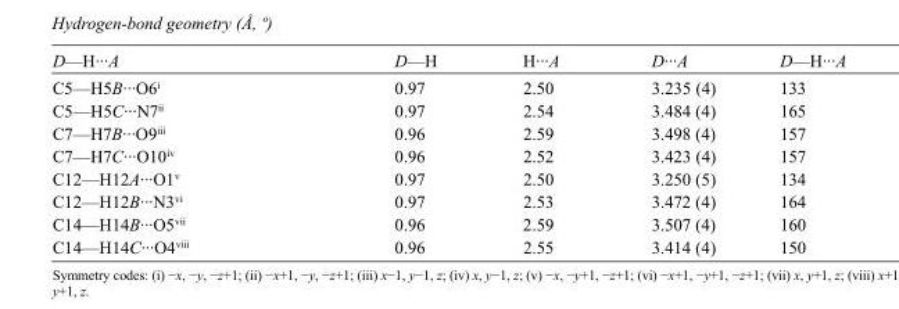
<table><tbody><tr><td>D—H···A</td><td>D—H</td><td>H···A</td><td>D···A</td><td>D—H···A</td></tr><tr><td>C5—H5B···O6<sup>i</sup></td><td>0.97</td><td>2.50</td><td>3.235 (4)</td><td>133</td></tr><tr><td>C5—H5C···N7<sup>ii</sup></td><td>0.97</td><td>2.54</td><td>3.484 (4)</td><td>165</td></tr><tr><td>C7—H7B···O9<sup>iii</sup></td><td>0.96</td><td>2.59</td><td>3.498 (4)</td><td>157</td></tr><tr><td>C7—H7C···O10<sup>iv</sup></td><td>0.96</td><td>2.52</td><td>3.423 (4)</td><td>157</td></tr><tr><td>C12—H12A···O1<sup>v</sup></td><td>0.97</td><td>2.50</td><td>3.250 (5)</td><td>134</td></tr><tr><td>C12—H12B···N3<sup>vi</sup></td><td>0.97</td><td>2.53</td><td>3.472 (4)</td><td>164</td></tr><tr><td>C14—H14B···O5<sup>vii</sup></td><td>0.96</td><td>2.59</td><td>3.507 (4)</td><td>160</td></tr><tr><td>C14—H14C···O4<sup>viii</sup></td><td>0.96</td><td>2.55</td><td>3.414 (4)</td><td>150</td></tr></tbody></table>